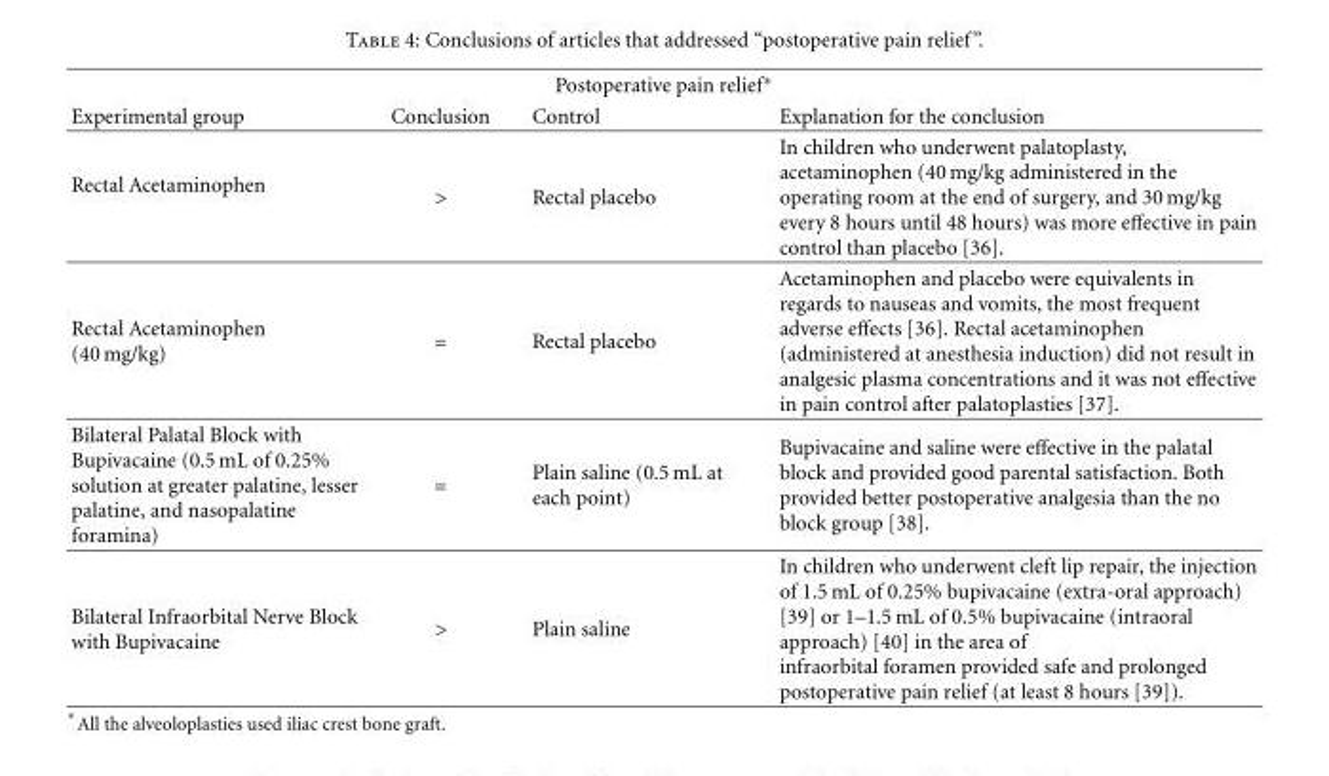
<table><thead><tr><td colspan="4">Postoperative pain relief∗</td></tr><tr><td>Experimental group</td><td>Conclusion</td><td>Control</td><td>Explanation for the conclusion</td></tr></thead><tbody><tr><td>Rectal Acetaminophen</td><td>&gt;</td><td>Rectal placebo</td><td>In children who underwent palatoplasty, acetaminophen (40 mg/kg administered in the operating room at the end of surgery, and 30 mg/kg every 8 hours until 48 hours) was more effective in pain control than placebo [36].</td></tr><tr><td>Rectal Acetaminophen (40 mg/kg)</td><td>=</td><td>Rectal placebo</td><td>Acetaminophen and placebo were equivalents in regards to nauseas and vomits, the most frequent adverse effects [36]. Rectal acetaminophen (administered at anesthesia induction) did not result in analgesic plasma concentrations and it was not effective in pain control after palatoplasties [37].</td></tr><tr><td>Bilateral Palatal Block with Bupivacaine (0.5 mL of 0.25% solution at greater palatine, lesser palatine, and nasopalatine foramina)</td><td>=</td><td>Plain saline (0.5 mL at each point)</td><td>Bupivacaine and saline were effective in the palatal block and provided good parental satisfaction. Both provided better postoperative analgesia than the no block group [38].</td></tr><tr><td>Bilateral Infraorbital Nerve Block with Bupivacaine</td><td>&gt;</td><td>Plain saline</td><td>In children who underwent cleft lip repair, the injection of 1.5 mL of 0.25% bupivacaine (extra-oral approach) [39] or 1–1.5 mL of 0.5% bupivacaine (intraoral approach) [40] in the area of infraorbital foramen provided safe and prolonged postoperative pain relief (at least 8 hours [39]).</td></tr></tbody></table>